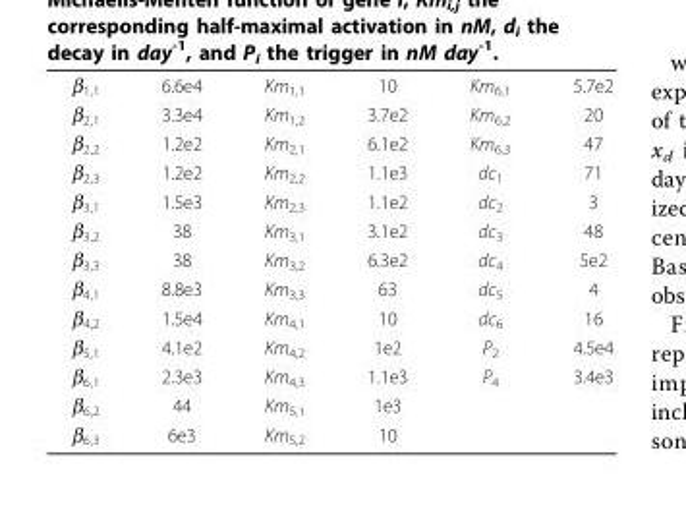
<table><tbody><tr><td>β<sub>1,1</sub></td><td>6.6e4</td><td>Km<sub>1,1</sub></td><td>10</td><td>Km<sub>6,1</sub></td><td>5.7e2</td></tr><tr><td>β<sub>2,1</sub></td><td>3.3e4</td><td>Km<sub>1,2</sub></td><td>3.7e2</td><td>Km<sub>6,2</sub></td><td>20</td></tr><tr><td>β<sub>2,2</sub></td><td>1.2e2</td><td>Km<sub>2,1</sub></td><td>6.1e2</td><td>Km<sub>6,3</sub></td><td>47</td></tr><tr><td>β<sub>2,3</sub></td><td>1.2e2</td><td>Km<sub>2,2</sub></td><td>1.1e3</td><td>dc<sub>1</sub></td><td>71</td></tr><tr><td>β<sub>3,1</sub></td><td>1.5e3</td><td>Km<sub>2,3</sub></td><td>1.1e2</td><td>dc<sub>2</sub></td><td>3</td></tr><tr><td>β<sub>3,2</sub></td><td>38</td><td>Km<sub>3,1</sub></td><td>3.1e2</td><td>dc<sub>3</sub></td><td>48</td></tr><tr><td>β<sub>3,3</sub></td><td>38</td><td>Km<sub>3,2</sub></td><td>6.3e2</td><td>dc<sub>4</sub></td><td>5e2</td></tr><tr><td>β<sub>4,1</sub></td><td>8.8e3</td><td>Km<sub>3,3</sub></td><td>63</td><td>dc<sub>5</sub></td><td>4</td></tr><tr><td>β<sub>4,2</sub></td><td>1.5e4</td><td>Km<sub>4,1</sub></td><td>10</td><td>dc<sub>6</sub></td><td>16</td></tr><tr><td>β<sub>5,1</sub></td><td>4.1e2</td><td>Km<sub>4,2</sub></td><td>1e2</td><td>P<sub>2</sub></td><td>4.5e4</td></tr><tr><td>β<sub>6,1</sub></td><td>2.3e3</td><td>Km<sub>4,3</sub></td><td>1.1e3</td><td>P<sub>4</sub></td><td>3.4e3</td></tr><tr><td>β<sub>6,2</sub></td><td>44</td><td>Km<sub>5,1</sub></td><td>1e3</td><td></td><td></td></tr><tr><td>β<sub>6,3</sub></td><td>6e3</td><td>Km<sub>5,2</sub></td><td>10</td><td></td><td></td></tr></tbody></table>